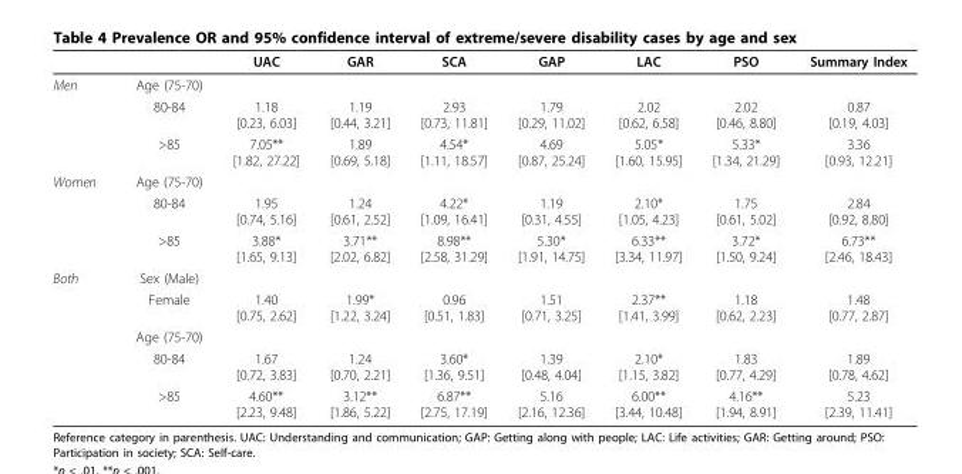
<table><thead><tr><td></td><td></td><td>UAC</td><td>GAR</td><td>SCA</td><td>GAP</td><td>LAC</td><td>PSO</td><td>Summary Index</td></tr></thead><tbody><tr><td rowspan="3">Men</td><td>Age (75-70)</td><td></td><td></td><td></td><td></td><td></td><td></td><td></td></tr><tr><td>80-84</td><td>1.18 [0.23, 6.03]</td><td>1.19 [0.44, 3.21]</td><td>2.93 [0.73, 11.81]</td><td>1.79 [0.29, 11.02]</td><td>2.02 [0.62, 6.58]</td><td>2.02 [0.46, 8.80]</td><td>0.87 [0.19, 4.03]</td></tr><tr><td>&gt;85</td><td>7.05** [1.82, 27.22]</td><td>1.89 [0.69, 5.18]</td><td>4.54* [1.11, 18.57]</td><td>4.69 [0.87, 25.24]</td><td>5.05* [1.60, 15.95]</td><td>5.33* [1.34, 21.29]</td><td>3.36 [0.93, 12.21]</td></tr><tr><td rowspan="3">Women</td><td>Age (75-70)</td><td></td><td></td><td></td><td></td><td></td><td></td><td></td></tr><tr><td>80-84</td><td>1.95 [0.74, 5.16]</td><td>1.24 [0.61, 2.52]</td><td>4.22* [1.09, 16.41]</td><td>1.19 [0.31, 4.55]</td><td>2.10* [1.05, 4.23]</td><td>1.75 [0.61, 5.02]</td><td>2.84 [0.92, 8.80]</td></tr><tr><td>&gt;85</td><td>3.88* [1.65, 9.13]</td><td>3.71** [2.02, 6.82]</td><td>8.98** [2.58, 31.29]</td><td>5.30* [1.91, 14.75]</td><td>6.33** [3.34, 11.97]</td><td>3.72* [1.50, 9.24]</td><td>6.73** [2.46, 18.43]</td></tr><tr><td rowspan="5">Both</td><td>Sex (Male)</td><td></td><td></td><td></td><td></td><td></td><td></td><td></td></tr><tr><td>Female</td><td>1.40 [0.75, 2.62]</td><td>1.99* [1.22, 3.24]</td><td>0.96 [0.51, 1.83]</td><td>1.51 [0.71, 3.25]</td><td>2.37** [1.41, 3.99]</td><td>1.18 [0.62, 2.23]</td><td>1.48 [0.77, 2.87]</td></tr><tr><td>Age (75-70)</td><td></td><td></td><td></td><td></td><td></td><td></td><td></td></tr><tr><td>80-84</td><td>1.67 [0.72, 3.83]</td><td>1.24 [0.70, 2.21]</td><td>3.60* [1.36, 9.51]</td><td>1.39 [0.48, 4.04]</td><td>2.10* [1.15, 3.82]</td><td>1.83 [0.77, 4.29]</td><td>1.89 [0.78, 4.62]</td></tr><tr><td>&gt;85</td><td>4.60** [2.23, 9.48]</td><td>3.12** [1.86, 5.22]</td><td>6.87** [2.75, 17.19]</td><td>5.16 [2.16, 12.36]</td><td>6.00** [3.44, 10.48]</td><td>4.16** [1.94, 8.91]</td><td>5.23 [2.39, 11.41]</td></tr></tbody></table>